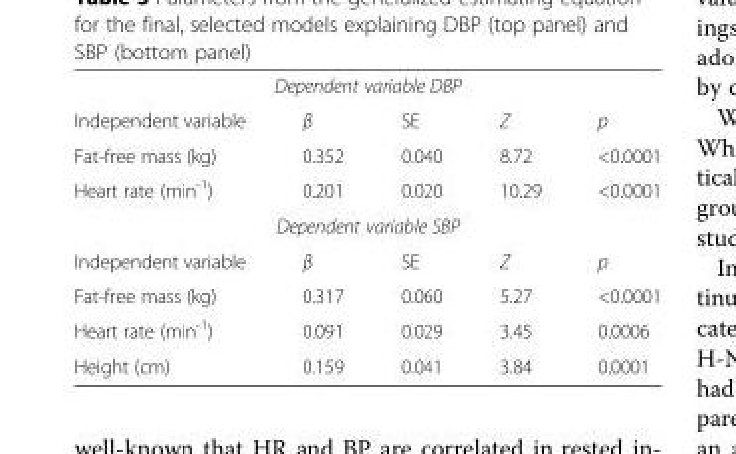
<table><tbody><tr><td colspan="5">Dependent variable DBP</td></tr><tr><td>Independent variable</td><td>β</td><td>SE</td><td>Z</td><td>p</td></tr><tr><td>Fat-free mass (kg)</td><td>0.352</td><td>0.040</td><td>8.72</td><td>&lt;0.0001</td></tr><tr><td>Heart rate (min<sup>-1</sup>)</td><td>0.201</td><td>0.020</td><td>10.29</td><td>&lt;0.0001</td></tr><tr><td colspan="5">Dependent variable SBP</td></tr><tr><td>Independent variable</td><td>β</td><td>SE</td><td>Z</td><td>p</td></tr><tr><td>Fat-free mass (kg)</td><td>0.317</td><td>0.060</td><td>5.27</td><td>&lt;0.0001</td></tr><tr><td>Heart rate (min<sup>-1</sup>)</td><td>0.091</td><td>0.029</td><td>3.45</td><td>0.0006</td></tr><tr><td>Height (cm)</td><td>0.159</td><td>0.041</td><td>3.84</td><td>0.0001</td></tr></tbody></table>